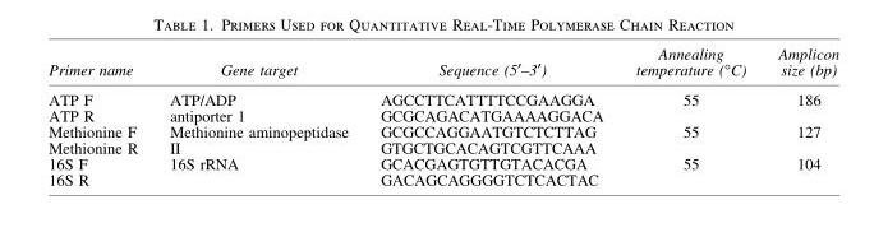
<table><thead><tr><td>Primer name</td><td>Gene target</td><td>Sequence (5¢–3¢)</td><td>Annealing temperature (°C)</td><td>Amplicon size (bp)</td></tr></thead><tbody><tr><td>ATP F</td><td>ATP/ADP</td><td>AGCCTTCATTTTCCGAAGGA</td><td>55</td><td>186</td></tr><tr><td>ATP R</td><td>antiporter 1</td><td>GCGCAGACATGAAAAGGACA</td><td></td><td></td></tr><tr><td>Methionine F</td><td>Methionine aminopeptidase</td><td>GCGCCAGGAATGTCTCTTAG</td><td>55</td><td>127</td></tr><tr><td>Methionine R</td><td>II</td><td>GTGCTGCACAGTCGTTCAAA</td><td></td><td></td></tr><tr><td>16S F</td><td>16S rRNA</td><td>GCACGAGTGTTGTACACGA</td><td>55</td><td>104</td></tr><tr><td>16S R</td><td></td><td>GACAGCAGGGGTCTCACTAC</td><td></td><td></td></tr></tbody></table>